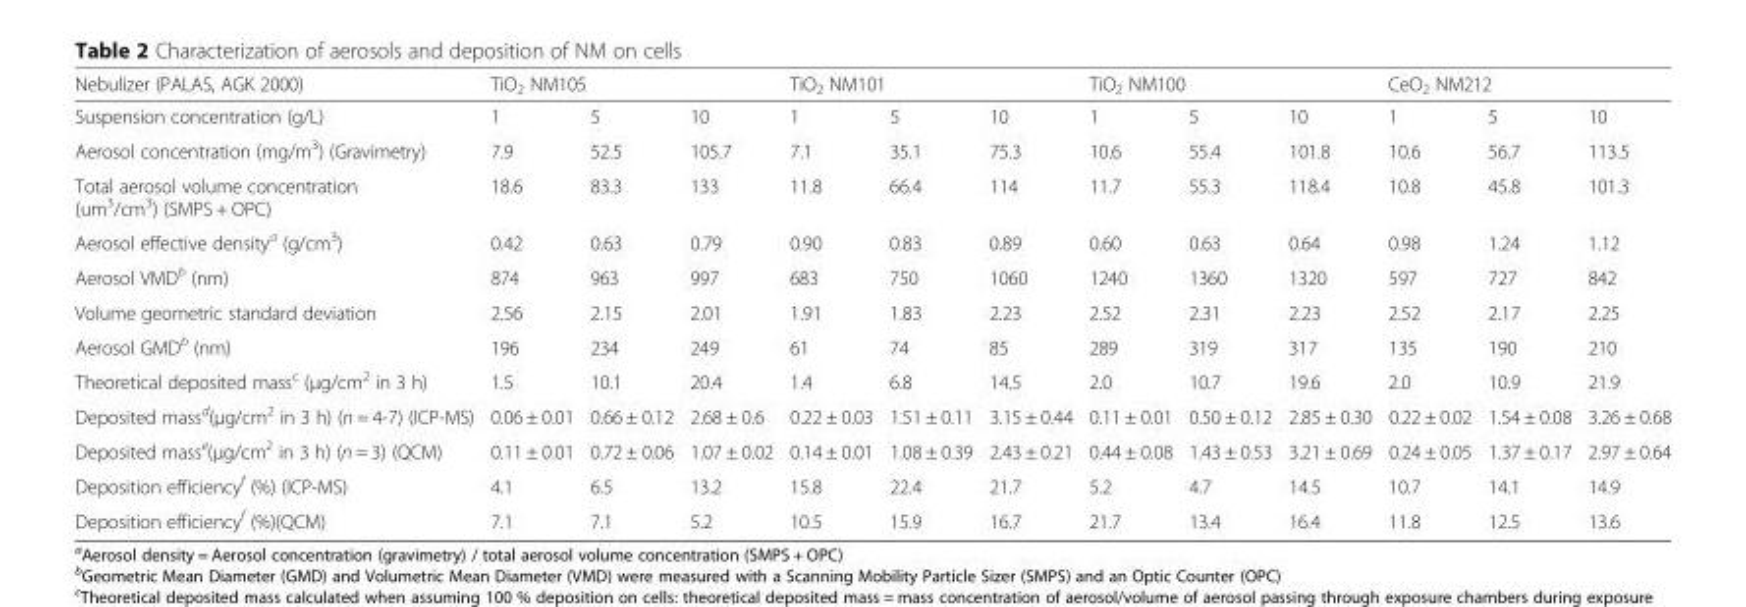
<table><thead><tr><td rowspan="2">Nebulizer (PALAS, AGK 2000) Suspension concentration (g/L)</td><td colspan="3">TiO<sub>2</sub> NM105</td><td colspan="3">TiO<sub>2</sub> NM101</td><td colspan="3">TiO<sub>2</sub> NM100</td><td colspan="3">CeO<sub>2</sub> NM212</td></tr><tr><td>1</td><td>5</td><td>10</td><td>1</td><td>5</td><td>10</td><td>1</td><td>5</td><td>10</td><td>1</td><td>5</td><td>10</td></tr></thead><tbody><tr><td>Aerosol concentration (mg/m<sup>3</sup>) (Gravimetry)</td><td>7.9</td><td>52.5</td><td>105.7</td><td>7.1</td><td>35.1</td><td>75.3</td><td>10.6</td><td>55.4</td><td>101.8</td><td>10.6</td><td>56.7</td><td>113.5</td></tr><tr><td>Total aerosol volume concentration (um<sup>3</sup>/cm<sup>3</sup>) (SMPS + OPC)</td><td>18.6</td><td>83.3</td><td>133</td><td>11.8</td><td>66.4</td><td>114</td><td>11.7</td><td>55.3</td><td>118.4</td><td>10.8</td><td>45.8</td><td>101.3</td></tr><tr><td>Aerosol effective density<sup>a</sup> (g/cm<sup>3</sup>)</td><td>0.42</td><td>0.63</td><td>0.79</td><td>0.90</td><td>0.83</td><td>0.89</td><td>0.60</td><td>0.63</td><td>0.64</td><td>0.98</td><td>1.24</td><td>1.12</td></tr><tr><td>Aerosol VMD<sup>b</sup> (nm)</td><td>874</td><td>963</td><td>997</td><td>683</td><td>750</td><td>1060</td><td>1240</td><td>1360</td><td>1320</td><td>597</td><td>727</td><td>842</td></tr><tr><td>Volume geometric standard deviation</td><td>2.56</td><td>2.15</td><td>2.01</td><td>1.91</td><td>1.83</td><td>2.23</td><td>2.52</td><td>2.31</td><td>2.23</td><td>2.52</td><td>2.17</td><td>2.25</td></tr><tr><td>Aerosol GMD<sup>b</sup> (nm)</td><td>196</td><td>234</td><td>249</td><td>61</td><td>74</td><td>85</td><td>289</td><td>319</td><td>317</td><td>135</td><td>190</td><td>210</td></tr><tr><td>Theoretical deposited mass<sup>c</sup> (μg/cm<sup>2</sup> in 3 h)</td><td>1.5</td><td>10.1</td><td>20.4</td><td>1.4</td><td>6.8</td><td>14.5</td><td>2.0</td><td>10.7</td><td>19.6</td><td>2.0</td><td>10.9</td><td>21.9</td></tr><tr><td>Deposited mass<sup>d</sup>(μg/cm<sup>2</sup> in 3 h) (n = 4-7) (ICP-MS)</td><td>0.06 ± 0.01</td><td>0.66 ± 0.12</td><td>2.68 ± 0.6</td><td>0.22 ± 0.03</td><td>1.51 ± 0.11</td><td>3.15 ± 0.44</td><td>0.11 ± 0.01</td><td>0.50 ± 0.12</td><td>2.85 ± 0.30</td><td>0.22 ± 0.02</td><td>1.54 ± 0.08</td><td>3.26 ± 0.68</td></tr><tr><td>Deposited mass<sup>e</sup>(μg/cm<sup>2</sup> in 3 h) (n = 3) (QCM)</td><td>0.11 ± 0.01</td><td>0.72 ± 0.06</td><td>1.07 ± 0.02</td><td>0.14 ± 0.01</td><td>1.08 ± 0.39</td><td>2.43 ± 0.21</td><td>0.44 ± 0.08</td><td>1.43 ± 0.53</td><td>3.21 ± 0.69</td><td>0.24 ± 0.05</td><td>1.37 ± 0.17</td><td>2.97 ± 0.64</td></tr><tr><td>Deposition efficiency<sup>f</sup> (%) (ICP-MS)</td><td>4.1</td><td>6.5</td><td>13.2</td><td>15.8</td><td>22.4</td><td>21.7</td><td>5.2</td><td>4.7</td><td>14.5</td><td>10.7</td><td>14.1</td><td>14.9</td></tr><tr><td>Deposition efficiency<sup>f</sup> (%)(QCM)</td><td>7.1</td><td>7.1</td><td>5.2</td><td>10.5</td><td>15.9</td><td>16.7</td><td>21.7</td><td>13.4</td><td>16.4</td><td>11.8</td><td>12.5</td><td>13.6</td></tr></tbody></table>